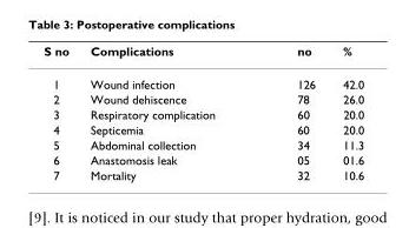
<table><thead><tr><td>S no</td><td>Complications</td><td>no</td><td>%</td></tr></thead><tbody><tr><td>1</td><td>Wound infection</td><td>126</td><td>42.0</td></tr><tr><td>2</td><td>Wound dehiscence</td><td>78</td><td>26.0</td></tr><tr><td>3</td><td>Respiratory complication</td><td>60</td><td>20.0</td></tr><tr><td>4</td><td>Septicemia</td><td>60</td><td>20.0</td></tr><tr><td>5</td><td>Abdominal collection</td><td>34</td><td>11.3</td></tr><tr><td>6</td><td>Anastomosis leak</td><td>05</td><td>01.6</td></tr><tr><td>7</td><td>Mortality</td><td>32</td><td>10.6</td></tr></tbody></table>